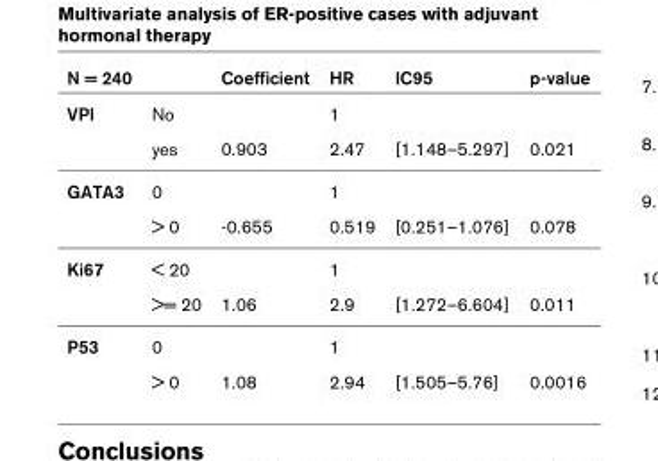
<table><thead><tr><td>N = 240</td><td></td><td>Coefficient</td><td>HR</td><td>IC95</td><td>p-value</td></tr></thead><tbody><tr><td rowspan="2">VPI</td><td>No</td><td></td><td>1</td><td></td><td></td></tr><tr><td>yes</td><td>0.903</td><td>2.47</td><td>[1.148–5.297]</td><td>0.021</td></tr><tr><td rowspan="2">GATA3</td><td>0</td><td></td><td>1</td><td></td><td></td></tr><tr><td>&gt; 0</td><td>-0.655</td><td>0.519</td><td>[0.251–1.076]</td><td>0.078</td></tr><tr><td rowspan="2">Ki67</td><td>&lt; 20</td><td></td><td>1</td><td></td><td></td></tr><tr><td>&gt;= 20</td><td>1.06</td><td>2.9</td><td>[1.272–6.604]</td><td>0.011</td></tr><tr><td rowspan="2">P53</td><td>0</td><td></td><td>1</td><td></td><td></td></tr><tr><td>&gt; 0</td><td>1.08</td><td>2.94</td><td>[1.505–5.76]</td><td>0.0016</td></tr></tbody></table>